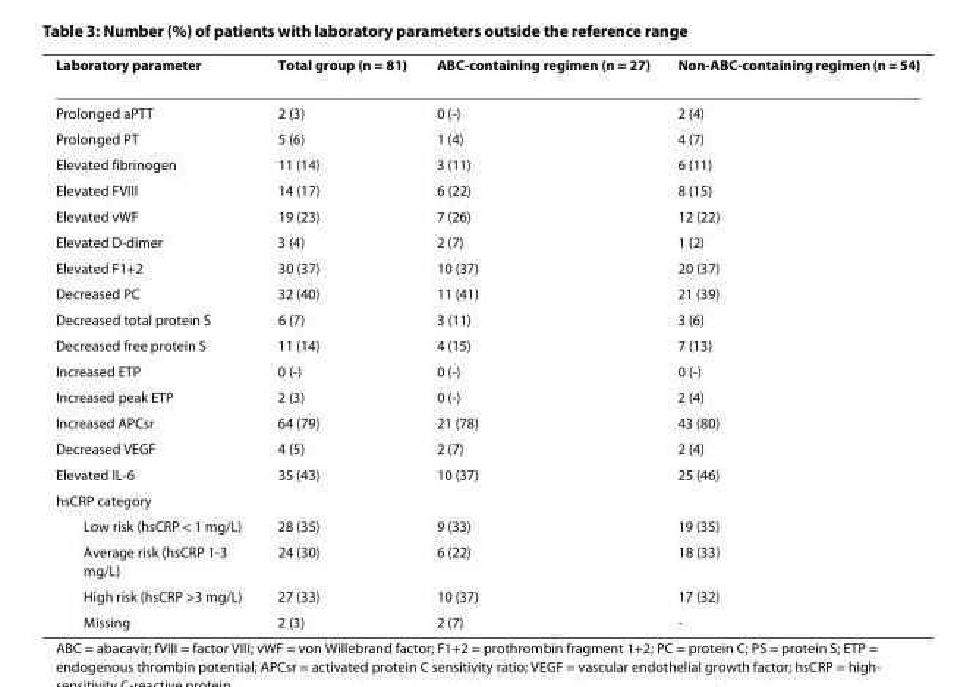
<table><thead><tr><td>Laboratory parameter</td><td>Total group (n = 81)</td><td>ABC-containing regimen (n = 27)</td><td>Non-ABC-containing regimen (n = 54)</td></tr></thead><tbody><tr><td>Prolonged aPTT</td><td>2 (3)</td><td>0 (-)</td><td>2 (4)</td></tr><tr><td>Prolonged PT</td><td>5 (6)</td><td>1 (4)</td><td>4 (7)</td></tr><tr><td>Elevated fibrinogen</td><td>11 (14)</td><td>3 (11)</td><td>6 (11)</td></tr><tr><td>Elevated FVIII</td><td>14 (17)</td><td>6 (22)</td><td>8 (15)</td></tr><tr><td>Elevated vWF</td><td>19 (23)</td><td>7 (26)</td><td>12 (22)</td></tr><tr><td>Elevated D-dimer</td><td>3 (4)</td><td>2 (7)</td><td>1 (2)</td></tr><tr><td>Elevated F1+2</td><td>30 (37)</td><td>10 (37)</td><td>20 (37)</td></tr><tr><td>Decreased PC</td><td>32 (40)</td><td>11 (41)</td><td>21 (39)</td></tr><tr><td>Decreased total protein S</td><td>6 (7)</td><td>3 (11)</td><td>3 (6)</td></tr><tr><td>Decreased free protein S</td><td>11 (14)</td><td>4 (15)</td><td>7 (13)</td></tr><tr><td>Increased ETP</td><td>0 (-)</td><td>0 (-)</td><td>0 (-)</td></tr><tr><td>Increased peak ETP</td><td>2 (3)</td><td>0 (-)</td><td>2 (4)</td></tr><tr><td>Increased APCsr</td><td>64 (79)</td><td>21 (78)</td><td>43 (80)</td></tr><tr><td>Decreased VEGF</td><td>4 (5)</td><td>2 (7)</td><td>2 (4)</td></tr><tr><td>Elevated IL-6</td><td>35 (43)</td><td>10 (37)</td><td>25 (46)</td></tr><tr><td colspan="4">hsCRP category</td></tr><tr><td>Low risk (hsCRP &lt; 1 mg/L)</td><td>28 (35)</td><td>9 (33)</td><td>19 (35)</td></tr><tr><td>Average risk (hsCRP 1-3 mg/L)</td><td>24 (30)</td><td>6 (22)</td><td>18 (33)</td></tr><tr><td>High risk (hsCRP &gt;3 mg/L)</td><td>27 (33)</td><td>10 (37)</td><td>17 (32)</td></tr><tr><td>Missing</td><td>2 (3)</td><td>2 (7)</td><td>-</td></tr></tbody></table>